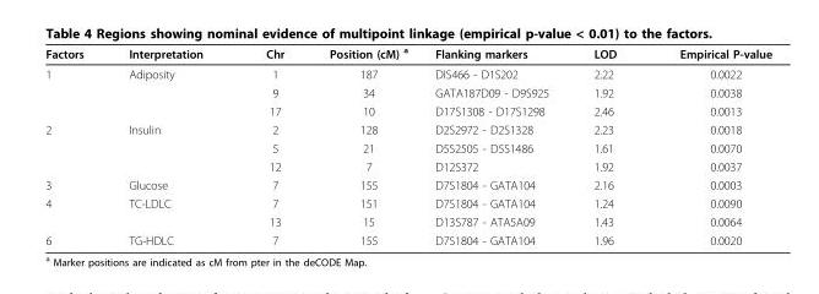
<table><thead><tr><td>Factors</td><td>Interpretation</td><td>Chr</td><td>Position (cM) <sup>a</sup></td><td>Flanking markers</td><td>LOD</td><td>Empirical P-value</td></tr></thead><tbody><tr><td rowspan="3">1</td><td>Adiposity</td><td>1</td><td>187</td><td>DIS466 - D1S202</td><td>2.22</td><td>0.0022</td></tr><tr><td></td><td>9</td><td>34</td><td>GATA187D09 - D9S925</td><td>1.92</td><td>0.0038</td></tr><tr><td></td><td>17</td><td>10</td><td>D17S1308 - D17S1298</td><td>2.46</td><td>0.0013</td></tr><tr><td rowspan="3">2</td><td>Insulin</td><td>2</td><td>128</td><td>D2S2972 - D2S1328</td><td>2.23</td><td>0.0018</td></tr><tr><td></td><td>5</td><td>21</td><td>D5S2505 - D5S1486</td><td>1.61</td><td>0.0070</td></tr><tr><td></td><td>12</td><td>7</td><td>D12S372</td><td>1.92</td><td>0.0037</td></tr><tr><td>3</td><td>Glucose</td><td>7</td><td>155</td><td>D7S1804 - GATA104</td><td>2.16</td><td>0.0003</td></tr><tr><td rowspan="2">4</td><td>TC-LDLC</td><td>7</td><td>151</td><td>D7S1804 - GATA104</td><td>1.24</td><td>0.0090</td></tr><tr><td></td><td>13</td><td>15</td><td>D13S787 - ATA5A09</td><td>1.43</td><td>0.0064</td></tr><tr><td>6</td><td>TG-HDLC</td><td>7</td><td>155</td><td>D7S1804 - GATA104</td><td>1.96</td><td>0.0020</td></tr></tbody></table>